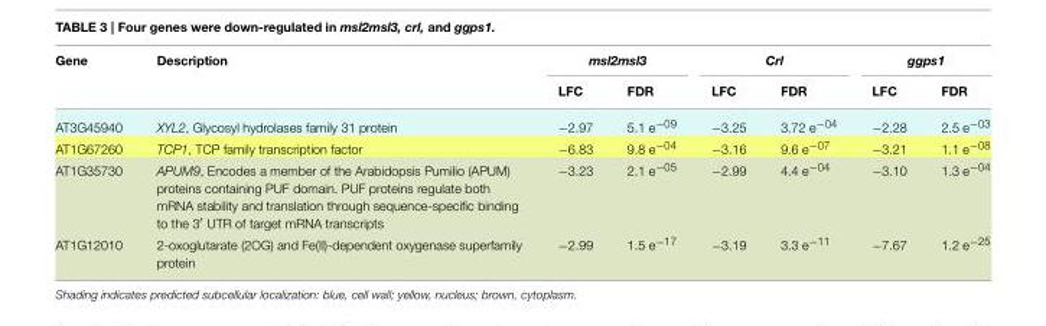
<table><thead><tr><td rowspan="2">Gene</td><td rowspan="2">Description</td><td colspan="2">msl2msl3</td><td colspan="2">Crl</td><td colspan="2">ggps1</td></tr><tr><td>LFC</td><td>FDR</td><td>LFC</td><td>FDR</td><td>LFC</td><td>FDR</td></tr></thead><tbody><tr><td>AT3G45940</td><td>XYL2, Glycosyl hydrolases family 31 protein</td><td>−2.97</td><td>5.1 e<sup>−09</sup></td><td>−3.25</td><td>3.72 e<sup>−04</sup></td><td>−2.28</td><td>2.5 e<sup>−03</sup></td></tr><tr><td>AT1G67260</td><td>TCP1, TCP family transcription factor</td><td>−6.83</td><td>9.8 e<sup>−04</sup></td><td>−3.16</td><td>9.6 e<sup>−07</sup></td><td>−3.21</td><td>1.1 e<sup>−08</sup></td></tr><tr><td>AT1G35730</td><td>APUM9, Encodes a member of the Arabidopsis Pumilio (APUM) proteins containing PUF domain. PUF proteins regulate both mRNA stability and translation through sequence-specific binding to the 3′ UTR of target mRNA transcripts</td><td>−3.23</td><td>2.1 e<sup>−05</sup></td><td>−2.99</td><td>4.4 e<sup>−04</sup></td><td>−3.10</td><td>1.3 e<sup>−04</sup></td></tr><tr><td>AT1G12010</td><td>2-oxoglutarate (2OG) and Fe(II)-dependent oxygenase superfamily protein</td><td>−2.99</td><td>1.5 e<sup>−17</sup></td><td>−3.19</td><td>3.3 e<sup>−11</sup></td><td>−7.67</td><td>1.2 e<sup>−25</sup></td></tr></tbody></table>